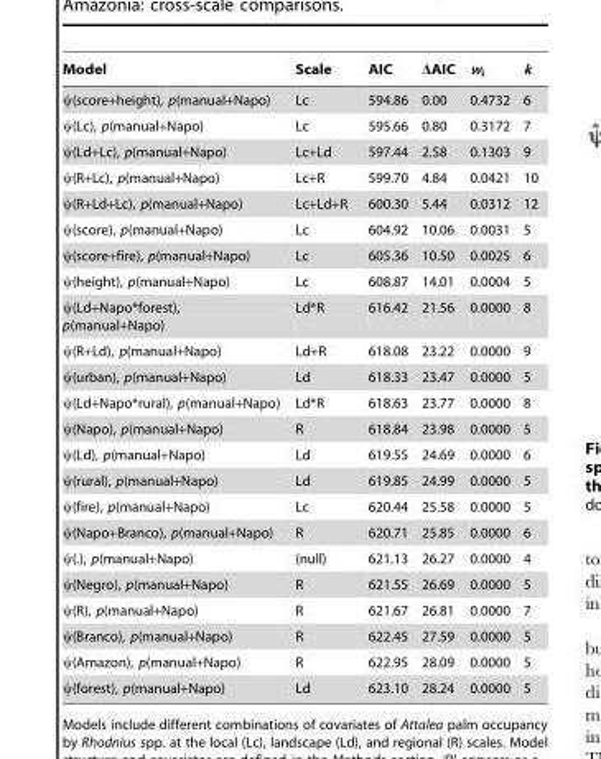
<table><thead><tr><td>Model</td><td>Scale</td><td>AIC</td><td>ΔAIC</td><td>w<sub>i</sub></td><td>k</td></tr></thead><tbody><tr><td>ψ(score+height), p(manual+Napo)</td><td>Lc</td><td>594.86</td><td>0.00</td><td>0.4732</td><td>6</td></tr><tr><td>ψ(Lc), p(manual+Napo)</td><td>Lc</td><td>595.66</td><td>0.80</td><td>0.3172</td><td>7</td></tr><tr><td>ψ(Ld+Lc), p(manual+Napo)</td><td>Lc+Ld</td><td>597.44</td><td>2.58</td><td>0.1303</td><td>9</td></tr><tr><td>ψ(R+Lc), p(manual+Napo)</td><td>Lc+R</td><td>599.70</td><td>4.84</td><td>0.0421</td><td>10</td></tr><tr><td>ψ(R+Ld+Lc), p(manual+Napo)</td><td>Lc+Ld+R</td><td>600.30</td><td>5.44</td><td>0.0312</td><td>12</td></tr><tr><td>ψ(score), p(manual+Napo)</td><td>Lc</td><td>604.92</td><td>10.06</td><td>0.0031</td><td>5</td></tr><tr><td>ψ(score+fire), p(manual+Napo)</td><td>Lc</td><td>605.36</td><td>10.50</td><td>0.0025</td><td>6</td></tr><tr><td>ψ(height), p(manual+Napo)</td><td>Lc</td><td>608.87</td><td>14.01</td><td>0.0004</td><td>5</td></tr><tr><td>ψ(Ld+Napo*forest), p(manual+Napo)</td><td>Ld*R</td><td>616.42</td><td>21.56</td><td>0.0000</td><td>8</td></tr><tr><td>ψ(R+Ld), p(manual+Napo)</td><td>Ld+R</td><td>618.08</td><td>23.22</td><td>0.0000</td><td>9</td></tr><tr><td>ψ(urban), p(manual+Napo)</td><td>Ld</td><td>618.33</td><td>23.47</td><td>0.0000</td><td>5</td></tr><tr><td>ψ(Ld+Napo*rural), p(manual+Napo)</td><td>Ld*R</td><td>618.63</td><td>23.77</td><td>0.0000</td><td>8</td></tr><tr><td>ψ(Napo), p(manual+Napo)</td><td>R</td><td>618.84</td><td>23.98</td><td>0.0000</td><td>5</td></tr><tr><td>ψ(Ld), p(manual+Napo)</td><td>Ld</td><td>619.55</td><td>24.69</td><td>0.0000</td><td>6</td></tr><tr><td>ψ(rural), p(manual+Napo)</td><td>Ld</td><td>619.85</td><td>24.99</td><td>0.0000</td><td>5</td></tr><tr><td>ψ(fire), p(manual+Napo)</td><td>Lc</td><td>620.44</td><td>25.58</td><td>0.0000</td><td>5</td></tr><tr><td>ψ(Napo+Branco), p(manual+Napo)</td><td>R</td><td>620.71</td><td>25.85</td><td>0.0000</td><td>6</td></tr><tr><td>ψ(.), p(manual+Napo)</td><td>(null)</td><td>621.13</td><td>26.27</td><td>0.0000</td><td>4</td></tr><tr><td>ψ(Negro), p(manual+Napo)</td><td>R</td><td>621.55</td><td>26.69</td><td>0.0000</td><td>5</td></tr><tr><td>ψ(R), p(manual+Napo)</td><td>R</td><td>621.67</td><td>26.81</td><td>0.0000</td><td>7</td></tr><tr><td>ψ(Branco), p(manual+Napo)</td><td>R</td><td>622.45</td><td>27.59</td><td>0.0000</td><td>5</td></tr><tr><td>ψ(Amazon), p(manual+Napo)</td><td>R</td><td>622.95</td><td>28.09</td><td>0.0000</td><td>5</td></tr><tr><td>ψ(forest), p(manual+Napo)</td><td>Ld</td><td>623.10</td><td>28.24</td><td>0.0000</td><td>5</td></tr></tbody></table>